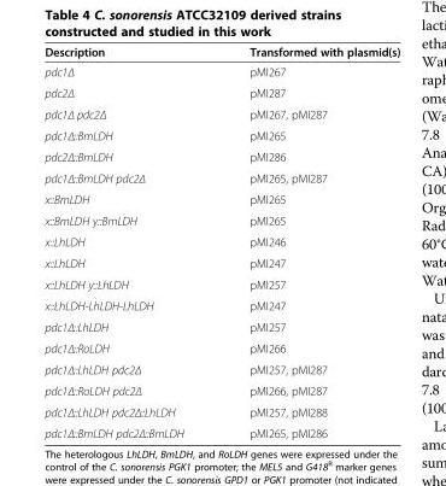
<table><thead><tr><td>Description</td><td>Transformed with plasmid(s)</td></tr></thead><tbody><tr><td>pdc1Δ</td><td>pMI267</td></tr><tr><td>pdc2Δ</td><td>pMI287</td></tr><tr><td>pdc1Δ pdc2Δ</td><td>pMI267, pMI287</td></tr><tr><td>pdc1Δ::BmLDH</td><td>pMI265</td></tr><tr><td>pdc2Δ::BmLDH</td><td>pMI286</td></tr><tr><td>pdc1Δ::BmLDH pdc2Δ</td><td>pMI265, pMI287</td></tr><tr><td>x::BmLDH</td><td>pMI265</td></tr><tr><td>x::BmLDH y::BmLDH</td><td>pMI265</td></tr><tr><td>x::LhLDH</td><td>pMI246</td></tr><tr><td>x::LhLDH</td><td>pMI247</td></tr><tr><td>x::LhLDH y::LhLDH</td><td>pMI257</td></tr><tr><td>x::LhLDH-LhLDH-LhLDH</td><td>pMI247</td></tr><tr><td>pdc1Δ::LhLDH</td><td>pMI257</td></tr><tr><td>pdc1Δ::RoLDH</td><td>pMI266</td></tr><tr><td>pdc1Δ::LhLDH pdc2Δ</td><td>pMI257, pMI287</td></tr><tr><td>pdc1Δ::RoLDH pdc2Δ</td><td>pMI266, pMI287</td></tr><tr><td>pdc1Δ::LhLDH pdc2Δ::LhLDH</td><td>pMI257, pMI288</td></tr><tr><td>pdc1Δ::BmLDH pdc2Δ::BmLDH</td><td>pMI265, pMI286</td></tr></tbody></table>